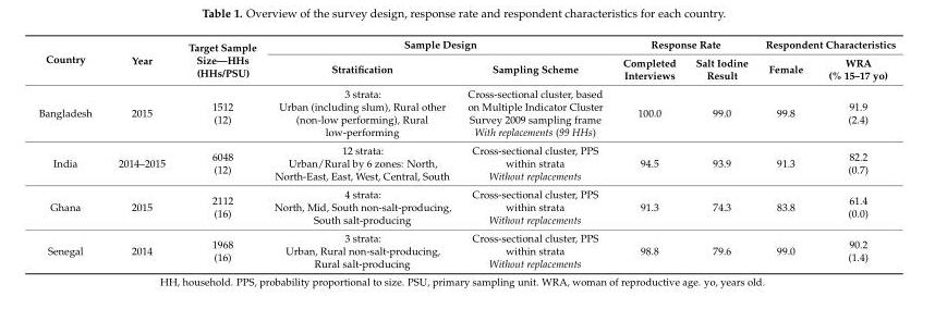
<table><thead><tr><td rowspan="2">Country</td><td rowspan="2">Year</td><td rowspan="2">Target Sample Size—HHs (HHs/PSU)</td><td colspan="2">Sample Design</td><td colspan="2">Response Rate</td><td colspan="2">Respondent Characteristics</td></tr><tr><td>Stratification</td><td>Sampling Scheme</td><td>Completed Interviews</td><td>Salt Iodine Result</td><td>Female</td><td>WRA (% 15–17 yo)</td></tr></thead><tbody><tr><td>Bangladesh</td><td>2015</td><td>1512 (12)</td><td>3 strata: Urban (including slum), Rural other (non-low performing), Rural low-performing</td><td>Cross-sectional cluster, based on Multiple Indicator Cluster Survey 2009 sampling frame With replacements (99 HHs)</td><td>100.0</td><td>99.0</td><td>99.8</td><td>91.9 (2.4)</td></tr><tr><td>India</td><td>2014–2015</td><td>6048 (12)</td><td>12 strata: Urban/Rural by 6 zones: North, North-East, East, West, Central, South</td><td>Cross-sectional cluster, PPS within strata Without replacements</td><td>94.5</td><td>93.9</td><td>91.3</td><td>82.2 (0.7)</td></tr><tr><td>Ghana</td><td>2015</td><td>2112 (16)</td><td>4 strata: North, Mid, South non-salt-producing, South salt-producing</td><td>Cross-sectional cluster, PPS within strata Without replacements</td><td>91.3</td><td>74.3</td><td>83.8</td><td>61.4 (0.0)</td></tr><tr><td>Senegal</td><td>2014</td><td>1968 (16)</td><td>3 strata: Urban, Rural non-salt-producing, Rural salt-producing</td><td>Cross-sectional cluster, PPS within strata Without replacements</td><td>98.8</td><td>79.6</td><td>99.0</td><td>90.2 (1.4)</td></tr></tbody></table>